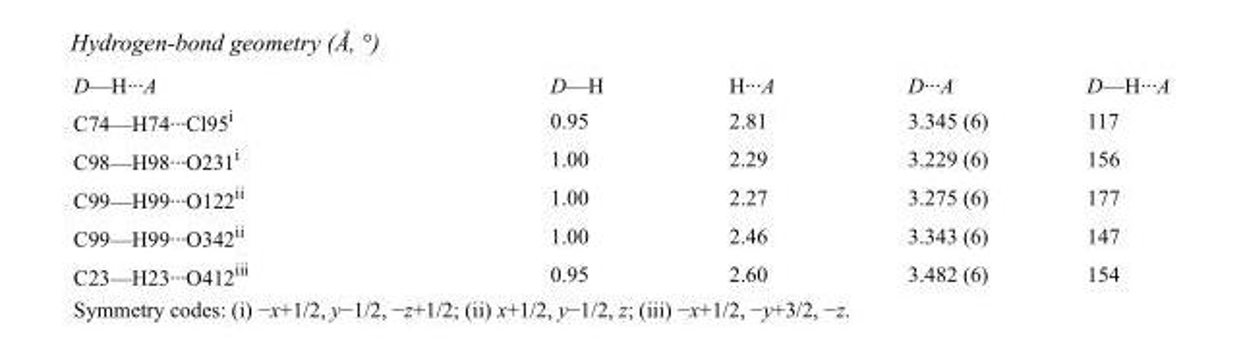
<table><tbody><tr><td>D—H···A</td><td>D—H</td><td>H···A</td><td>D···A</td><td>D—H···A</td></tr><tr><td>C74—H74···Cl95<sup>i</sup></td><td>0.95</td><td>2.81</td><td>3.345 (6)</td><td>117</td></tr><tr><td>C98—H98···O231<sup>i</sup></td><td>1.00</td><td>2.29</td><td>3.229 (6)</td><td>156</td></tr><tr><td>C99—H99···O122<sup>ii</sup></td><td>1.00</td><td>2.27</td><td>3.275 (6)</td><td>177</td></tr><tr><td>C99—H99···O342<sup>ii</sup></td><td>1.00</td><td>2.46</td><td>3.343 (6)</td><td>147</td></tr><tr><td>C23—H23···O412<sup>iii</sup></td><td>0.95</td><td>2.60</td><td>3.482 (6)</td><td>154</td></tr></tbody></table>